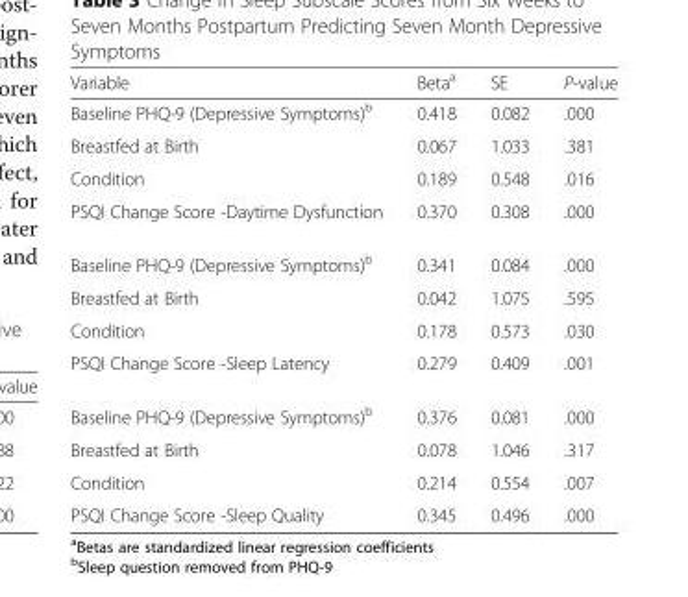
<table><thead><tr><td>Variable</td><td>Beta<sup>a</sup></td><td>SE</td><td>P-value</td></tr></thead><tbody><tr><td>Baseline PHQ-9 (Depressive Symptoms)<sup>b</sup></td><td>0.418</td><td>0.082</td><td>.000</td></tr><tr><td>Breastfed at Birth</td><td>0.067</td><td>1.033</td><td>.381</td></tr><tr><td>Condition</td><td>0.189</td><td>0.548</td><td>.016</td></tr><tr><td>PSQI Change Score -Daytime Dysfunction</td><td>0.370</td><td>0.308</td><td>.000</td></tr><tr><td>Baseline PHQ-9 (Depressive Symptoms)<sup>b</sup></td><td>0.341</td><td>0.084</td><td>.000</td></tr><tr><td>Breastfed at Birth</td><td>0.042</td><td>1.075</td><td>.595</td></tr><tr><td>Condition</td><td>0.178</td><td>0.573</td><td>.030</td></tr><tr><td>PSQI Change Score -Sleep Latency</td><td>0.279</td><td>0.409</td><td>.001</td></tr><tr><td>Baseline PHQ-9 (Depressive Symptoms)<sup>b</sup></td><td>0.376</td><td>0.081</td><td>.000</td></tr><tr><td>Breastfed at Birth</td><td>0.078</td><td>1.046</td><td>.317</td></tr><tr><td>Condition</td><td>0.214</td><td>0.554</td><td>.007</td></tr><tr><td>PSQI Change Score -Sleep Quality</td><td>0.345</td><td>0.496</td><td>.000</td></tr></tbody></table>